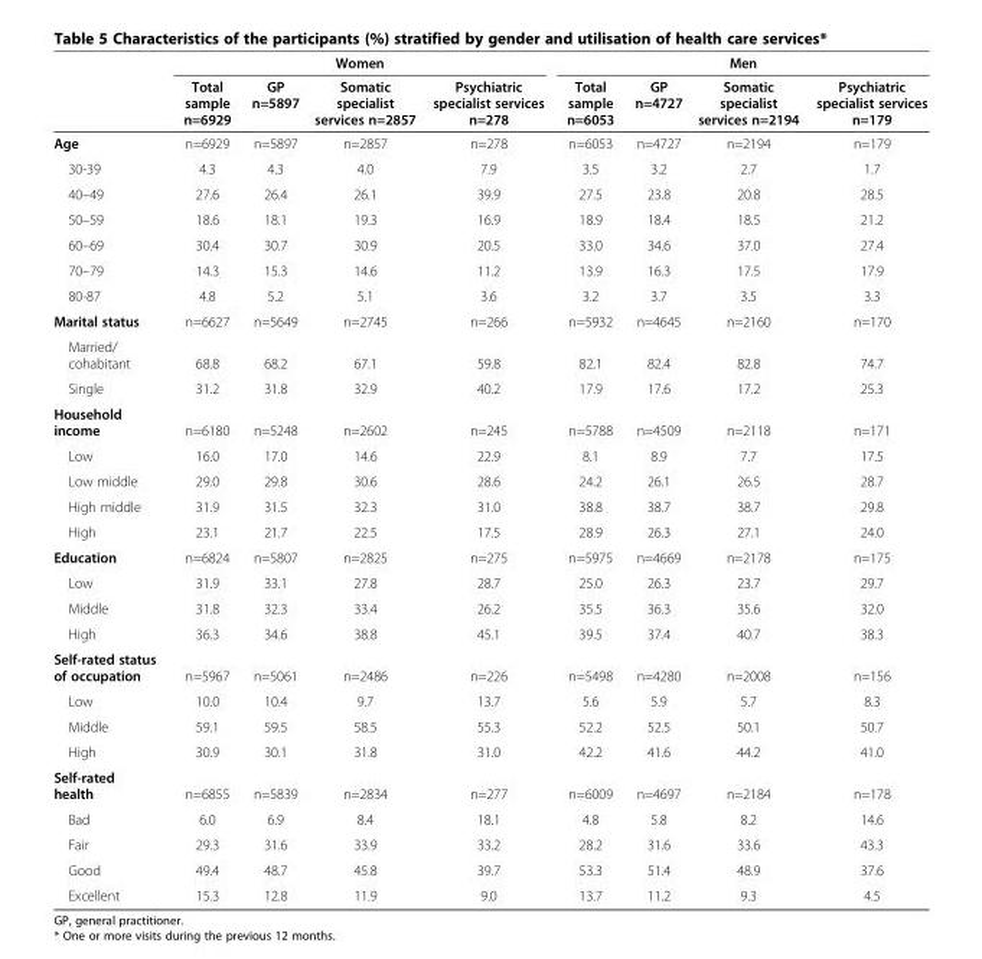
<table><thead><tr><td rowspan="2"></td><td colspan="4">Women</td><td colspan="4">Men</td></tr><tr><td>Total sample n=6929</td><td>GP n=5897</td><td>Somatic specialist services n=2857</td><td>Psychiatric specialist services n=278</td><td>Total sample n=6053</td><td>GP n=4727</td><td>Somatic specialist services n=2194</td><td>Psychiatric specialist services n=179</td></tr></thead><tbody><tr><td>Age</td><td>n=6929</td><td>n=5897</td><td>n=2857</td><td>n=278</td><td>n=6053</td><td>n=4727</td><td>n=2194</td><td>n=179</td></tr><tr><td>30-39</td><td>4.3</td><td>4.3</td><td>4.0</td><td>7.9</td><td>3.5</td><td>3.2</td><td>2.7</td><td>1.7</td></tr><tr><td>40–49</td><td>27.6</td><td>26.4</td><td>26.1</td><td>39.9</td><td>27.5</td><td>23.8</td><td>20.8</td><td>28.5</td></tr><tr><td>50–59</td><td>18.6</td><td>18.1</td><td>19.3</td><td>16.9</td><td>18.9</td><td>18.4</td><td>18.5</td><td>21.2</td></tr><tr><td>60–69</td><td>30.4</td><td>30.7</td><td>30.9</td><td>20.5</td><td>33.0</td><td>34.6</td><td>37.0</td><td>27.4</td></tr><tr><td>70–79</td><td>14.3</td><td>15.3</td><td>14.6</td><td>11.2</td><td>13.9</td><td>16.3</td><td>17.5</td><td>17.9</td></tr><tr><td>80-87</td><td>4.8</td><td>5.2</td><td>5.1</td><td>3.6</td><td>3.2</td><td>3.7</td><td>3.5</td><td>3.3</td></tr><tr><td>Marital status</td><td>n=6627</td><td>n=5649</td><td>n=2745</td><td>n=266</td><td>n=5932</td><td>n=4645</td><td>n=2160</td><td>n=170</td></tr><tr><td>Married/ cohabitant</td><td>68.8</td><td>68.2</td><td>67.1</td><td>59.8</td><td>82.1</td><td>82.4</td><td>82.8</td><td>74.7</td></tr><tr><td>Single</td><td>31.2</td><td>31.8</td><td>32.9</td><td>40.2</td><td>17.9</td><td>17.6</td><td>17.2</td><td>25.3</td></tr><tr><td>Household income</td><td>n=6180</td><td>n=5248</td><td>n=2602</td><td>n=245</td><td>n=5788</td><td>n=4509</td><td>n=2118</td><td>n=171</td></tr><tr><td>Low</td><td>16.0</td><td>17.0</td><td>14.6</td><td>22.9</td><td>8.1</td><td>8.9</td><td>7.7</td><td>17.5</td></tr><tr><td>Low middle</td><td>29.0</td><td>29.8</td><td>30.6</td><td>28.6</td><td>24.2</td><td>26.1</td><td>26.5</td><td>28.7</td></tr><tr><td>High middle</td><td>31.9</td><td>31.5</td><td>32.3</td><td>31.0</td><td>38.8</td><td>38.7</td><td>38.7</td><td>29.8</td></tr><tr><td>High</td><td>23.1</td><td>21.7</td><td>22.5</td><td>17.5</td><td>28.9</td><td>26.3</td><td>27.1</td><td>24.0</td></tr><tr><td>Education</td><td>n=6824</td><td>n=5807</td><td>n=2825</td><td>n=275</td><td>n=5975</td><td>n=4669</td><td>n=2178</td><td>n=175</td></tr><tr><td>Low</td><td>31.9</td><td>33.1</td><td>27.8</td><td>28.7</td><td>25.0</td><td>26.3</td><td>23.7</td><td>29.7</td></tr><tr><td>Middle</td><td>31.8</td><td>32.3</td><td>33.4</td><td>26.2</td><td>35.5</td><td>36.3</td><td>35.6</td><td>32.0</td></tr><tr><td>High</td><td>36.3</td><td>34.6</td><td>38.8</td><td>45.1</td><td>39.5</td><td>37.4</td><td>40.7</td><td>38.3</td></tr><tr><td>Self-rated status of occupation</td><td>n=5967</td><td>n=5061</td><td>n=2486</td><td>n=226</td><td>n=5498</td><td>n=4280</td><td>n=2008</td><td>n=156</td></tr><tr><td>Low</td><td>10.0</td><td>10.4</td><td>9.7</td><td>13.7</td><td>5.6</td><td>5.9</td><td>5.7</td><td>8.3</td></tr><tr><td>Middle</td><td>59.1</td><td>59.5</td><td>58.5</td><td>55.3</td><td>52.2</td><td>52.5</td><td>50.1</td><td>50.7</td></tr><tr><td>High</td><td>30.9</td><td>30.1</td><td>31.8</td><td>31.0</td><td>42.2</td><td>41.6</td><td>44.2</td><td>41.0</td></tr><tr><td>Self-rated health</td><td>n=6855</td><td>n=5839</td><td>n=2834</td><td>n=277</td><td>n=6009</td><td>n=4697</td><td>n=2184</td><td>n=178</td></tr><tr><td>Bad</td><td>6.0</td><td>6.9</td><td>8.4</td><td>18.1</td><td>4.8</td><td>5.8</td><td>8.2</td><td>14.6</td></tr><tr><td>Fair</td><td>29.3</td><td>31.6</td><td>33.9</td><td>33.2</td><td>28.2</td><td>31.6</td><td>33.6</td><td>43.3</td></tr><tr><td>Good</td><td>49.4</td><td>48.7</td><td>45.8</td><td>39.7</td><td>53.3</td><td>51.4</td><td>48.9</td><td>37.6</td></tr><tr><td>Excellent</td><td>15.3</td><td>12.8</td><td>11.9</td><td>9.0</td><td>13.7</td><td>11.2</td><td>9.3</td><td>4.5</td></tr></tbody></table>